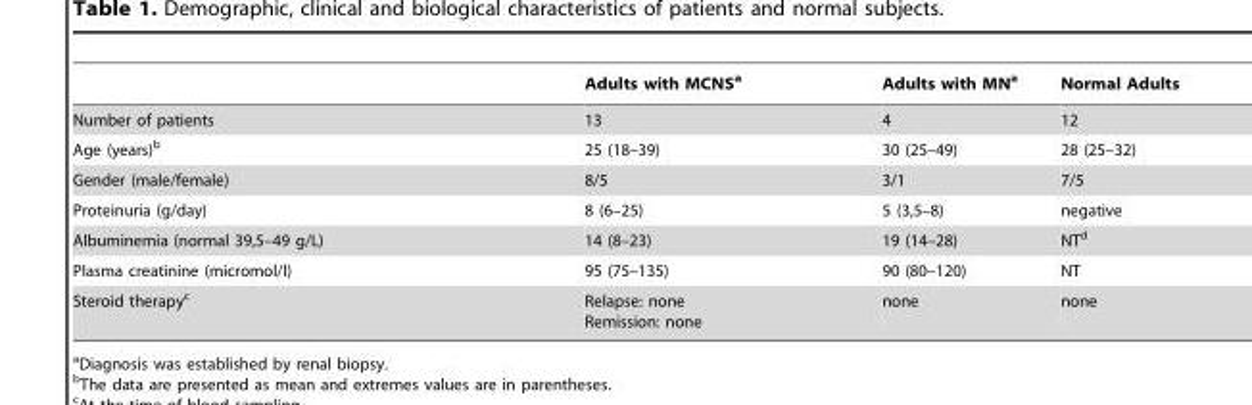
<table><thead><tr><td></td><td>Adults with MCNS<sup>a</sup></td><td>Adults with MN<sup>a</sup></td><td>Normal Adults</td></tr></thead><tbody><tr><td>Number of patients</td><td>13</td><td>4</td><td>12</td></tr><tr><td>Age (years)<sup>b</sup></td><td>25 (18–39)</td><td>30 (25–49)</td><td>28 (25–32)</td></tr><tr><td>Gender (male/female)</td><td>8/5</td><td>3/1</td><td>7/5</td></tr><tr><td>Proteinuria (g/day)</td><td>8 (6–25)</td><td>5 (3,5–8)</td><td>negative</td></tr><tr><td>Albuminemia (normal 39,5–49 g/L)</td><td>14 (8–23)</td><td>19 (14–28)</td><td>NT<sup>d</sup></td></tr><tr><td>Plasma creatinine (micromol/l)</td><td>95 (75–135)</td><td>90 (80–120)</td><td>NT</td></tr><tr><td>Steroid therapy<sup>c</sup></td><td>Relapse: none Remission: none</td><td>none</td><td>none</td></tr></tbody></table>